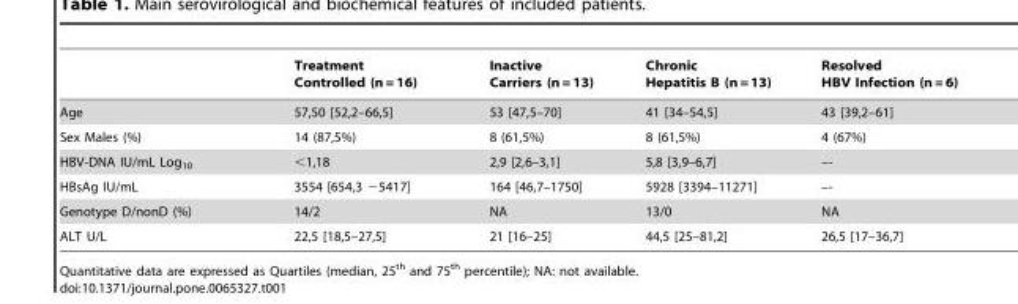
<table><thead><tr><td></td><td>Treatment Controlled (n = 16)</td><td>Inactive Carriers (n = 13)</td><td>Chronic Hepatitis B (n = 13)</td><td>Resolved HBV Infection (n = 6)</td></tr></thead><tbody><tr><td>Age</td><td>57,50 [52,2–66,5]</td><td>53 [47,5–70]</td><td>41 [34–54,5]</td><td>43 [39,2–61]</td></tr><tr><td>Sex Males (%)</td><td>14 (87,5%)</td><td>8 (61,5%)</td><td>8 (61,5%)</td><td>4 (67%)</td></tr><tr><td>HBV-DNA IU/mL Log<sub>10</sub></td><td>&lt;1,18</td><td>2,9 [2,6–3,1]</td><td>5,8 [3,9–6,7]</td><td>–-</td></tr><tr><td>HBsAg IU/mL</td><td>3554 [654,3 −5417]</td><td>164 [46,7–1750]</td><td>5928 [3394–11271]</td><td>–-</td></tr><tr><td>Genotype D/nonD (%)</td><td>14/2</td><td>NA</td><td>13/0</td><td>NA</td></tr><tr><td>ALT U/L</td><td>22,5 [18,5–27,5]</td><td>21 [16–25]</td><td>44,5 [25–81,2]</td><td>26,5 [17–36,7]</td></tr></tbody></table>